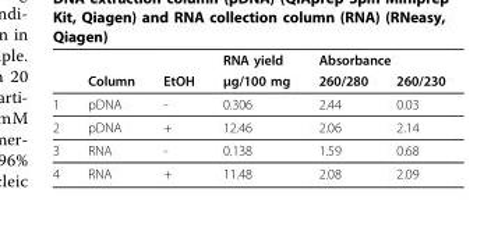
<table><thead><tr><td rowspan="2"></td><td rowspan="2">Column</td><td rowspan="2">EtOH</td><td rowspan="2">RNA yield μg/100 mg</td><td colspan="2">Absorbance</td></tr><tr><td>260/280</td><td>260/230</td></tr></thead><tbody><tr><td>1</td><td>pDNA</td><td>-</td><td>0.306</td><td>2.44</td><td>0.03</td></tr><tr><td>2</td><td>pDNA</td><td>+</td><td>12.46</td><td>2.06</td><td>2.14</td></tr><tr><td>3</td><td>RNA</td><td>-</td><td>0.138</td><td>1.59</td><td>0.68</td></tr><tr><td>4</td><td>RNA</td><td>+</td><td>11.48</td><td>2.08</td><td>2.09</td></tr></tbody></table>